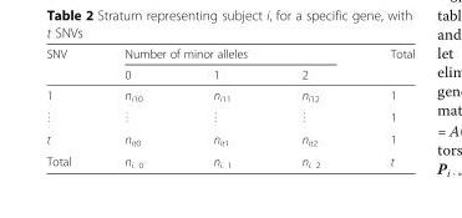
<table><thead><tr><td rowspan="2">SNV</td><td colspan="3">Number of minor alleles</td><td rowspan="2">Total</td></tr><tr><td>0</td><td>1</td><td>2</td></tr></thead><tbody><tr><td>1</td><td>n<sub>i10</sub></td><td>n<sub>i11</sub></td><td>n<sub>i12</sub></td><td>1</td></tr><tr><td>⋮</td><td>⋮</td><td>⋮</td><td>⋮</td><td>1</td></tr><tr><td>t</td><td>n<sub>it0</sub></td><td>n<sub>it1</sub></td><td>n<sub>it2</sub></td><td>1</td></tr><tr><td>Total</td><td>n<sub>i. 0</sub></td><td>n<sub>i. 1</sub></td><td>n<sub>i. 2</sub></td><td>t</td></tr></tbody></table>